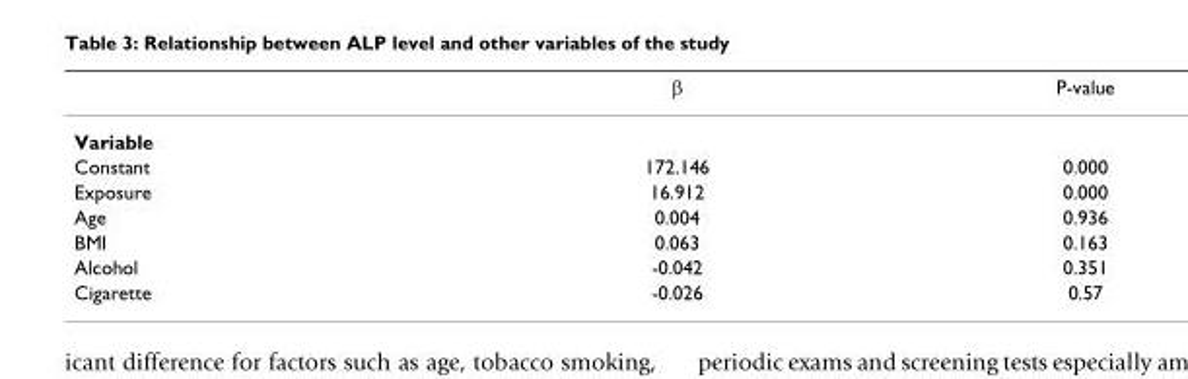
<table><thead><tr><td></td><td>β</td><td>P-value</td></tr></thead><tbody><tr><td colspan="3">Variable</td></tr><tr><td>Constant</td><td>172.146</td><td>0.000</td></tr><tr><td>Exposure</td><td>16.912</td><td>0.000</td></tr><tr><td>Age</td><td>0.004</td><td>0.936</td></tr><tr><td>BMI</td><td>0.063</td><td>0.163</td></tr><tr><td>Alcohol</td><td>-0.042</td><td>0.351</td></tr><tr><td>Cigarette</td><td>-0.026</td><td>0.57</td></tr></tbody></table>